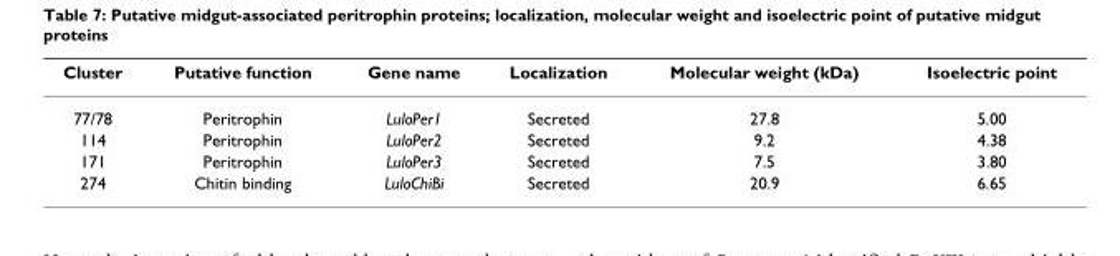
<table><thead><tr><td>Cluster</td><td>Putative function</td><td>Gene name</td><td>Localization</td><td>Molecular weight (kDa)</td><td>Isoelectric point</td></tr></thead><tbody><tr><td>77/78</td><td>Peritrophin</td><td>LuloPer1</td><td>Secreted</td><td>27.8</td><td>5.00</td></tr><tr><td>114</td><td>Peritrophin</td><td>LuloPer2</td><td>Secreted</td><td>9.2</td><td>4.38</td></tr><tr><td>171</td><td>Peritrophin</td><td>LuloPer3</td><td>Secreted</td><td>7.5</td><td>3.80</td></tr><tr><td>274</td><td>Chitin binding</td><td>LuloChiBi</td><td>Secreted</td><td>20.9</td><td>6.65</td></tr></tbody></table>